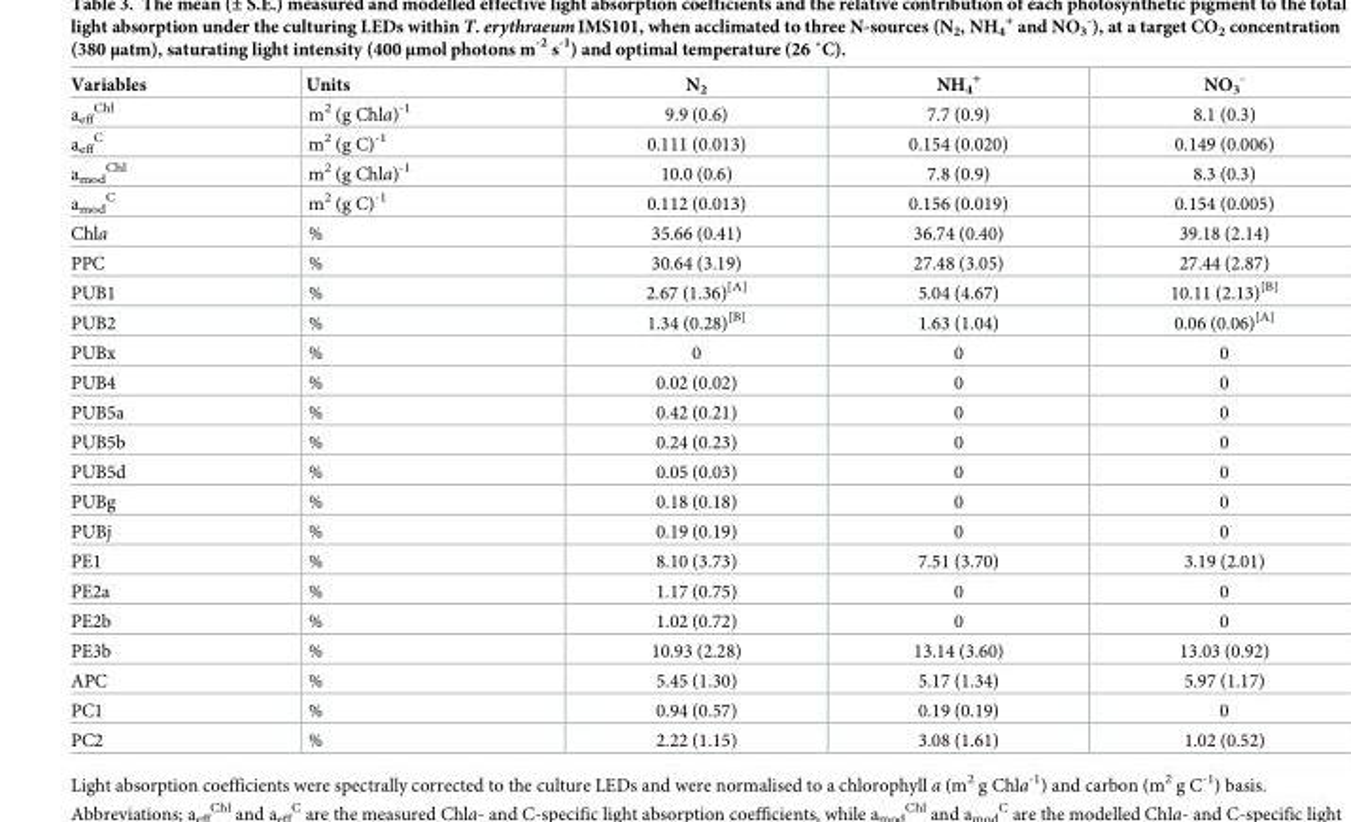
<table><thead><tr><td>Variables</td><td>Units</td><td>N<sub>2</sub></td><td>NH<sub>4</sub> <sup>+</sup></td><td>NO<sub>3</sub> <sup>-</sup></td></tr></thead><tbody><tr><td>a<sub>eff</sub> <sup>Chl</sup></td><td>m<sup>2</sup> (g Chla)<sup>-1</sup></td><td>9.9 (0.6)</td><td>7.7 (0.9)</td><td>8.1 (0.3)</td></tr><tr><td>a<sub>eff</sub> <sup>C</sup></td><td>m<sup>2</sup> (g C)<sup>-1</sup></td><td>0.111 (0.013)</td><td>0.154 (0.020)</td><td>0.149 (0.006)</td></tr><tr><td>a<sub>mod</sub> <sup>Chl</sup></td><td>m<sup>2</sup> (g Chla)<sup>-1</sup></td><td>10.0 (0.6)</td><td>7.8 (0.9)</td><td>8.3 (0.3)</td></tr><tr><td>a<sub>mod</sub> <sup>C</sup></td><td>m<sup>2</sup> (g C)<sup>-1</sup></td><td>0.112 (0.013)</td><td>0.156 (0.019)</td><td>0.154 (0.005)</td></tr><tr><td>Chla</td><td>%</td><td>35.66 (0.41)</td><td>36.74 (0.40)</td><td>39.18 (2.14)</td></tr><tr><td>PPC</td><td>%</td><td>30.64 (3.19)</td><td>27.48 (3.05)</td><td>27.44 (2.87)</td></tr><tr><td>PUB1</td><td>%</td><td>2.67 (1.36)<sup>[A]</sup></td><td>5.04 (4.67)</td><td>10.11 (2.13)<sup>[B]</sup></td></tr><tr><td>PUB2</td><td>%</td><td>1.34 (0.28)<sup>[B]</sup></td><td>1.63 (1.04)</td><td>0.06 (0.06)<sup>[A]</sup></td></tr><tr><td>PUBx</td><td>%</td><td>0</td><td>0</td><td>0</td></tr><tr><td>PUB4</td><td>%</td><td>0.02 (0.02)</td><td>0</td><td>0</td></tr><tr><td>PUB5a</td><td>%</td><td>0.42 (0.21)</td><td>0</td><td>0</td></tr><tr><td>PUB5b</td><td>%</td><td>0.24 (0.23)</td><td>0</td><td>0</td></tr><tr><td>PUB5d</td><td>%</td><td>0.05 (0.03)</td><td>0</td><td>0</td></tr><tr><td>PUBg</td><td>%</td><td>0.18 (0.18)</td><td>0</td><td>0</td></tr><tr><td>PUBj</td><td>%</td><td>0.19 (0.19)</td><td>0</td><td>0</td></tr><tr><td>PE1</td><td>%</td><td>8.10 (3.73)</td><td>7.51 (3.70)</td><td>3.19 (2.01)</td></tr><tr><td>PE2a</td><td>%</td><td>1.17 (0.75)</td><td>0</td><td>0</td></tr><tr><td>PE2b</td><td>%</td><td>1.02 (0.72)</td><td>0</td><td>0</td></tr><tr><td>PE3b</td><td>%</td><td>10.93 (2.28)</td><td>13.14 (3.60)</td><td>13.03 (0.92)</td></tr><tr><td>APC</td><td>%</td><td>5.45 (1.30)</td><td>5.17 (1.34)</td><td>5.97 (1.17)</td></tr><tr><td>PC1</td><td>%</td><td>0.94 (0.57)</td><td>0.19 (0.19)</td><td>0</td></tr><tr><td>PC2</td><td>%</td><td>2.22 (1.15)</td><td>3.08 (1.61)</td><td>1.02 (0.52)</td></tr></tbody></table>